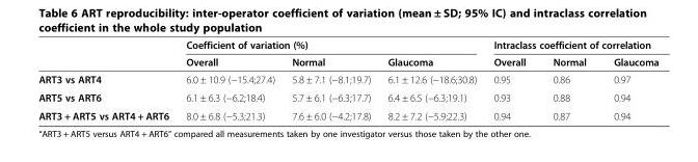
<table><thead><tr><td rowspan="2"></td><td colspan="3">Coefficient of variation (%)</td><td colspan="3">Intraclass coefficient of correlation</td></tr><tr><td>Overall</td><td>Normal</td><td>Glaucoma</td><td>Overall</td><td>Normal</td><td>Glaucoma</td></tr></thead><tbody><tr><td>ART3 vs ART4</td><td>6.0 ± 10.9 (−15.4;27.4)</td><td>5.8 ± 7.1 (−8.1;19.7)</td><td>6.1 ± 12.6 (−18.6;30.8)</td><td>0.95</td><td>0.86</td><td>0.97</td></tr><tr><td>ART5 vs ART6</td><td>6.1 ± 6.3 (−6.2;18.4)</td><td>5.7 ± 6.1 (−6.3;17.7)</td><td>6.4 ± 6.5 (−6.3;19.1)</td><td>0.93</td><td>0.88</td><td>0.94</td></tr><tr><td>ART3 + ART5 vs ART4 + ART6</td><td>8.0 ± 6.8 (−5.3;21.3)</td><td>7.6 ± 6.0 (−4.2;17.8)</td><td>8.2 ± 7.2 (−5.9;22.3)</td><td>0.94</td><td>0.87</td><td>0.94</td></tr></tbody></table>